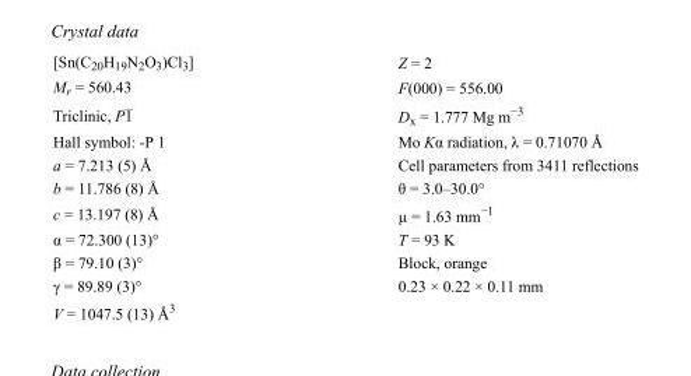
<table><tbody><tr><td>[Sn(C<sub>20</sub>H<sub>19</sub>N<sub>2</sub>O<sub>3</sub>)Cl<sub>3</sub>]</td><td>Z = 2</td></tr><tr><td>M<sub>r</sub> = 560.43</td><td>F(000) = 556.00</td></tr><tr><td>Triclinic, P1</td><td>D<sub>x</sub> = 1.777 Mg m<sup>−3</sup></td></tr><tr><td>Hall symbol: -P 1</td><td>Mo Kα radiation, λ = 0.71070 Å</td></tr><tr><td>a = 7.213 (5) Å</td><td>Cell parameters from 3411 reflections</td></tr><tr><td>b = 11.786 (8) Å</td><td>θ = 3.0–30.0°</td></tr><tr><td>c = 13.197 (8) Å</td><td>µ = 1.63 mm<sup>−1</sup></td></tr><tr><td>α = 72.300 (13)°</td><td>T = 93 K</td></tr><tr><td>β = 79.10 (3)°</td><td>Block, orange</td></tr><tr><td>γ = 89.89 (3)°</td><td>0.23 × 0.22 × 0.11 mm</td></tr><tr><td>V = 1047.5 (13) Å<sup>3</sup></td><td></td></tr></tbody></table>